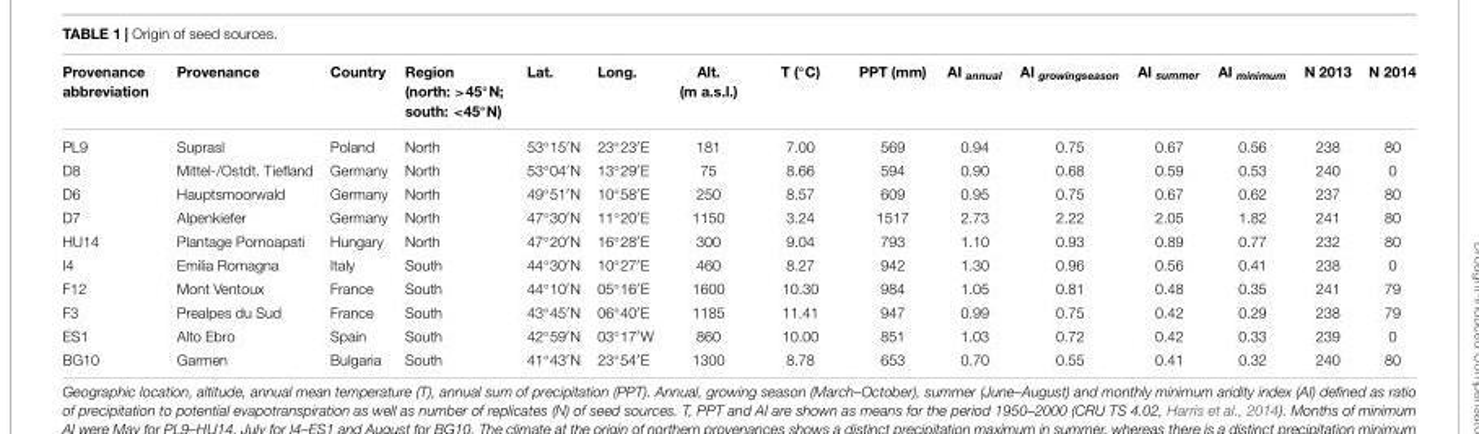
<table><thead><tr><td>Provenance abbreviation</td><td>Provenance</td><td>Country</td><td>Region (north: &gt;45◦N; south: &lt;45◦N)</td><td>Lat.</td><td>Long.</td><td>Alt. (m a.s.l.)</td><td>T (◦C)</td><td>PPT (mm)</td><td>AI <sub>annual</sub></td><td>AI <sub>growingseason</sub></td><td>AI <sub>summer</sub></td><td>AI <sub>minimum</sub></td><td>N 2013</td><td>N 2014</td></tr></thead><tbody><tr><td>PL9</td><td>Suprasl</td><td>Poland</td><td>North</td><td>53◦15′N</td><td>23◦23′E</td><td>181</td><td>7.00</td><td>569</td><td>0.94</td><td>0.75</td><td>0.67</td><td>0.56</td><td>238</td><td>80</td></tr><tr><td>D8</td><td>Mittel-/Ostdt. Tiefland</td><td>Germany</td><td>North</td><td>53◦04′N</td><td>13◦29′E</td><td>75</td><td>8.66</td><td>594</td><td>0.90</td><td>0.68</td><td>0.59</td><td>0.53</td><td>240</td><td>0</td></tr><tr><td>D6</td><td>Hauptsmoorwald</td><td>Germany</td><td>North</td><td>49◦51′N</td><td>10◦58′E</td><td>250</td><td>8.57</td><td>609</td><td>0.95</td><td>0.75</td><td>0.67</td><td>0.62</td><td>237</td><td>80</td></tr><tr><td>D7</td><td>Alpenkiefer</td><td>Germany</td><td>North</td><td>47◦30′N</td><td>11◦20′E</td><td>1150</td><td>3.24</td><td>1517</td><td>2.73</td><td>2.22</td><td>2.05</td><td>1.82</td><td>241</td><td>80</td></tr><tr><td>HU14</td><td>Plantage Pornoapati</td><td>Hungary</td><td>North</td><td>47◦20′N</td><td>16◦28′E</td><td>300</td><td>9.04</td><td>793</td><td>1.10</td><td>0.93</td><td>0.89</td><td>0.77</td><td>232</td><td>80</td></tr><tr><td>I4</td><td>Emilia Romagna</td><td>Italy</td><td>South</td><td>44◦30′N</td><td>10◦27′E</td><td>460</td><td>8.27</td><td>942</td><td>1.30</td><td>0.96</td><td>0.56</td><td>0.41</td><td>238</td><td>0</td></tr><tr><td>F12</td><td>Mont Ventoux</td><td>France</td><td>South</td><td>44◦10′N</td><td>05◦16′E</td><td>1600</td><td>10.30</td><td>984</td><td>1.05</td><td>0.81</td><td>0.48</td><td>0.35</td><td>241</td><td>79</td></tr><tr><td>F3</td><td>Prealpes du Sud</td><td>France</td><td>South</td><td>43◦45′N</td><td>06◦40′E</td><td>1185</td><td>11.41</td><td>947</td><td>0.99</td><td>0.75</td><td>0.42</td><td>0.29</td><td>238</td><td>79</td></tr><tr><td>ES1</td><td>Alto Ebro</td><td>Spain</td><td>South</td><td>42◦59′N</td><td>03◦17′W</td><td>860</td><td>10.00</td><td>851</td><td>1.03</td><td>0.72</td><td>0.42</td><td>0.33</td><td>239</td><td>0</td></tr><tr><td>BG10</td><td>Garmen</td><td>Bulgaria</td><td>South</td><td>41◦43′N</td><td>23◦54′E</td><td>1300</td><td>8.78</td><td>653</td><td>0.70</td><td>0.55</td><td>0.41</td><td>0.32</td><td>240</td><td>80</td></tr></tbody></table>